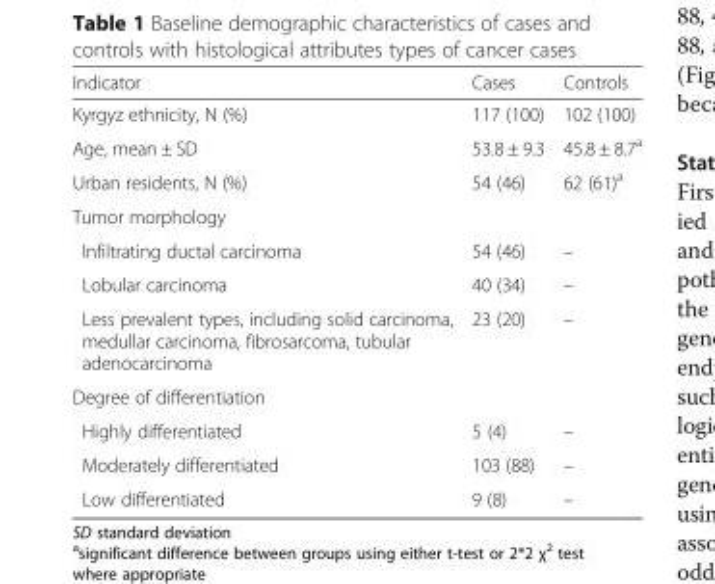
<table><thead><tr><td>Indicator</td><td>Cases</td><td>Controls</td></tr></thead><tbody><tr><td>Kyrgyz ethnicity, N (%)</td><td>117 (100)</td><td>102 (100)</td></tr><tr><td>Age, mean ± SD</td><td>53.8 ± 9.3</td><td>45.8 ± 8.7<sup>a</sup></td></tr><tr><td>Urban residents, N (%)</td><td>54 (46)</td><td>62 (61)<sup>a</sup></td></tr><tr><td colspan="3">Tumor morphology</td></tr><tr><td>Infiltrating ductal carcinoma</td><td>54 (46)</td><td>–</td></tr><tr><td>Lobular carcinoma</td><td>40 (34)</td><td>–</td></tr><tr><td>Less prevalent types, including solid carcinoma, medullar carcinoma, fibrosarcoma, tubular adenocarcinoma</td><td>23 (20)</td><td>–</td></tr><tr><td colspan="3">Degree of differentiation</td></tr><tr><td>Highly differentiated</td><td>5 (4)</td><td>–</td></tr><tr><td>Moderately differentiated</td><td>103 (88)</td><td>–</td></tr><tr><td>Low differentiated</td><td>9 (8)</td><td>–</td></tr></tbody></table>